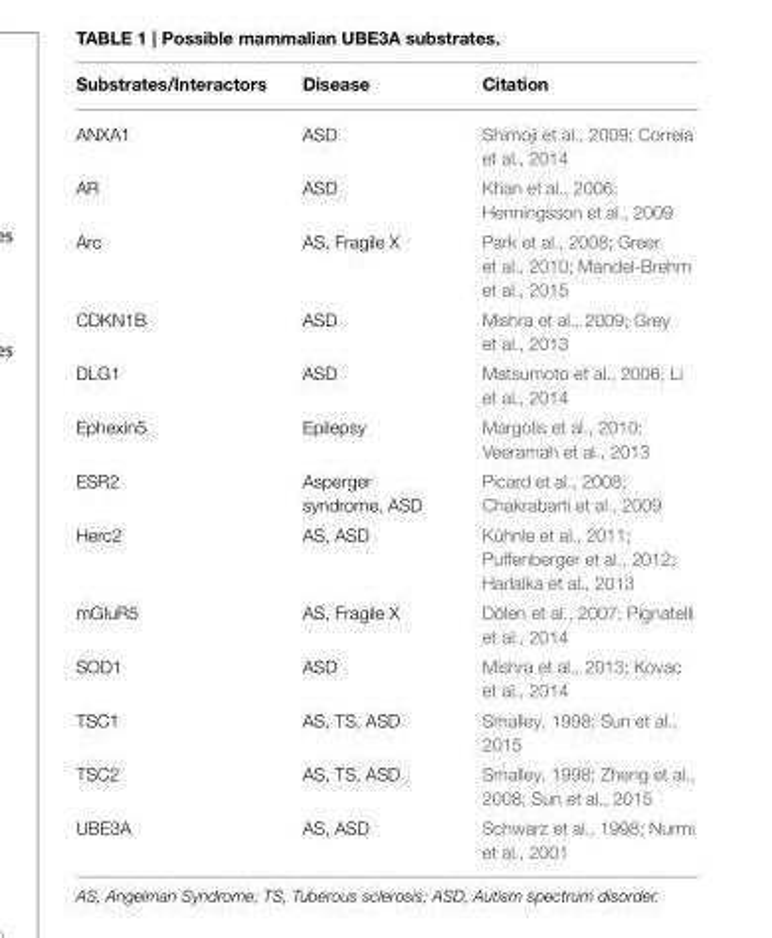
<table><thead><tr><td>Substrates/Interactors</td><td>Disease</td><td>Citation</td></tr></thead><tbody><tr><td>ANXA1</td><td>ASD</td><td>Shimoji et al., 2009; Correia et al., 2014</td></tr><tr><td>AR</td><td>ASD</td><td>Khan et al., 2006; Henningsson et al., 2009</td></tr><tr><td>Arc</td><td>AS, Fragile X</td><td>Park et al., 2008; Greer et al., 2010; Mandel-Brehm et al., 2015</td></tr><tr><td>CDKN1B</td><td>ASD</td><td>Mishra et al., 2009; Grey et al., 2013</td></tr><tr><td>DLG1</td><td>ASD</td><td>Matsumoto et al., 2006; Li et al., 2014</td></tr><tr><td>Ephexin5</td><td>Epilepsy</td><td>Margolis et al., 2010; Veeramah et al., 2013</td></tr><tr><td>ESR2</td><td>Asperger syndrome, ASD</td><td>Picard et al., 2008; Chakrabarti et al., 2009</td></tr><tr><td>Herc2</td><td>AS, ASD</td><td>Kühnle et al., 2011; Puffenberger et al., 2012; Harlalka et al., 2013</td></tr><tr><td>mGluR5</td><td>AS, Fragile X</td><td>Dölen et al., 2007; Pignatelli et al., 2014</td></tr><tr><td>SOD1</td><td>ASD</td><td>Mishra et al., 2013; Kovac et al., 2014</td></tr><tr><td>TSC1</td><td>AS, TS, ASD</td><td>Smalley, 1998; Sun et al., 2015</td></tr><tr><td>TSC2</td><td>AS, TS, ASD</td><td>Smalley, 1998; Zheng et al., 2008; Sun et al., 2015</td></tr><tr><td>UBE3A</td><td>AS, ASD</td><td>Schwarz et al., 1998; Nurmi et al., 2001</td></tr></tbody></table>